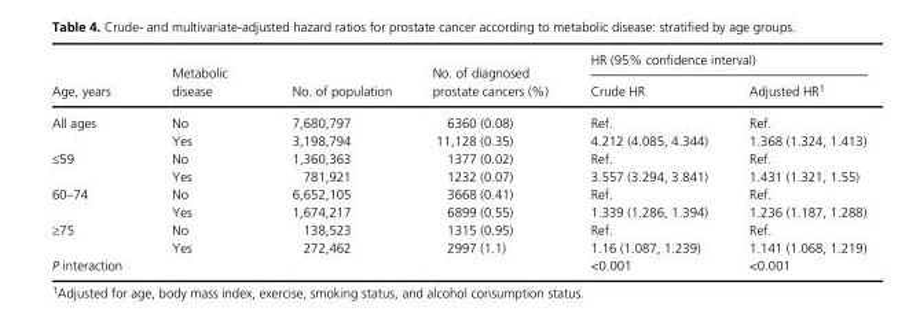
<table><thead><tr><td rowspan="2">Age, years</td><td rowspan="2">Metabolic disease</td><td rowspan="2">No. of population</td><td rowspan="2">No. of diagnosed prostate cancers (%)</td><td colspan="2">HR (95% confidence interval)</td></tr><tr><td>Crude HR</td><td>Adjusted HR1</td></tr></thead><tbody><tr><td rowspan="2">All ages</td><td>No</td><td>7,680,797</td><td>6360 (0.08)</td><td>Ref.</td><td>Ref.</td></tr><tr><td>Yes</td><td>3,198,794</td><td>11,128 (0.35)</td><td>4.212 (4.085, 4.344)</td><td>1.368 (1.324, 1.413)</td></tr><tr><td rowspan="2">≤59</td><td>No</td><td>1,360,363</td><td>1377 (0.02)</td><td>Ref.</td><td>Ref.</td></tr><tr><td>Yes</td><td>781,921</td><td>1232 (0.07)</td><td>3.557 (3.294, 3.841)</td><td>1.431 (1.321, 1.55)</td></tr><tr><td rowspan="2">60–74</td><td>No</td><td>6,652,105</td><td>3668 (0.41)</td><td>Ref.</td><td>Ref.</td></tr><tr><td>Yes</td><td>1,674,217</td><td>6899 (0.55)</td><td>1.339 (1.286, 1.394)</td><td>1.236 (1.187, 1.288)</td></tr><tr><td rowspan="2">≥75</td><td>No</td><td>138,523</td><td>1315 (0.95)</td><td>Ref.</td><td>Ref.</td></tr><tr><td>Yes</td><td>272,462</td><td>2997 (1.1)</td><td>1.16 (1.087, 1.239)</td><td>1.141 (1.068, 1.219)</td></tr><tr><td>P interaction</td><td></td><td></td><td></td><td>&lt;0.001</td><td>&lt;0.001</td></tr></tbody></table>